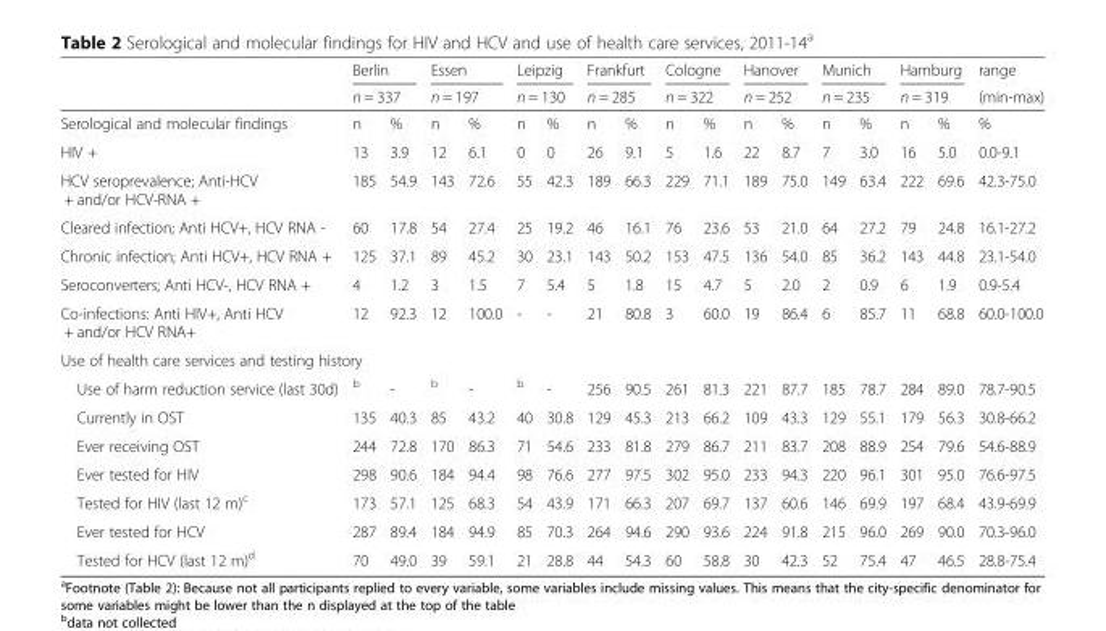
<table><thead><tr><td rowspan="3">Serological and molecular findings</td><td rowspan="2" colspan="2">Berlin n = 337</td><td rowspan="2" colspan="2">Essen n = 197</td><td rowspan="2" colspan="2">Leipzig n = 130</td><td rowspan="2" colspan="2">Frankfurt n = 285</td><td rowspan="2" colspan="2">Cologne n = 322</td><td rowspan="2" colspan="2">Hanover n = 252</td><td rowspan="2" colspan="2">Munich n = 235</td><td rowspan="2" colspan="2">Hamburg n = 319</td><td rowspan="3">range (min-max) %</td></tr><tr></tr><tr><td>n</td><td>%</td><td>n</td><td>%</td><td>n</td><td>%</td><td>n</td><td>%</td><td>n</td><td>%</td><td>n</td><td>%</td><td>n</td><td>%</td><td>n</td><td>%</td></tr></thead><tbody><tr><td>HIV +</td><td>13</td><td>3.9</td><td>12</td><td>6.1</td><td>0</td><td>0</td><td>26</td><td>9.1</td><td>5</td><td>1.6</td><td>22</td><td>8.7</td><td>7</td><td>3.0</td><td>16</td><td>5.0</td><td>0.0-9.1</td></tr><tr><td>HCV seroprevalence; Anti-HCV + and/or HCV-RNA +</td><td>185</td><td>54.9</td><td>143</td><td>72.6</td><td>55</td><td>42.3</td><td>189</td><td>66.3</td><td>229</td><td>71.1</td><td>189</td><td>75.0</td><td>149</td><td>63.4</td><td>222</td><td>69.6</td><td>42.3-75.0</td></tr><tr><td>Cleared infection; Anti HCV+, HCV RNA -</td><td>60</td><td>17.8</td><td>54</td><td>27.4</td><td>25</td><td>19.2</td><td>46</td><td>16.1</td><td>76</td><td>23.6</td><td>53</td><td>21.0</td><td>64</td><td>27.2</td><td>79</td><td>24.8</td><td>16.1-27.2</td></tr><tr><td>Chronic infection; Anti HCV+, HCV RNA +</td><td>125</td><td>37.1</td><td>89</td><td>45.2</td><td>30</td><td>23.1</td><td>143</td><td>50.2</td><td>153</td><td>47.5</td><td>136</td><td>54.0</td><td>85</td><td>36.2</td><td>143</td><td>44.8</td><td>23.1-54.0</td></tr><tr><td>Seroconverters; Anti HCV-, HCV RNA +</td><td>4</td><td>1.2</td><td>3</td><td>1.5</td><td>7</td><td>5.4</td><td>5</td><td>1.8</td><td>15</td><td>4.7</td><td>5</td><td>2.0</td><td>2</td><td>0.9</td><td>6</td><td>1.9</td><td>0.9-5.4</td></tr><tr><td>Co-infections: Anti HIV+, Anti HCV + and/or HCV RNA+</td><td>12</td><td>92.3</td><td>12</td><td>100.0</td><td>-</td><td>-</td><td>21</td><td>80.8</td><td>3</td><td>60.0</td><td>19</td><td>86.4</td><td>6</td><td>85.7</td><td>11</td><td>68.8</td><td>60.0-100.0</td></tr><tr><td colspan="18">Use of health care services and testing history</td></tr><tr><td>Use of harm reduction service (last 30d)</td><td><sup>b</sup></td><td>-</td><td><sup>b</sup></td><td>-</td><td><sup>b</sup></td><td>-</td><td>256</td><td>90.5</td><td>261</td><td>81.3</td><td>221</td><td>87.7</td><td>185</td><td>78.7</td><td>284</td><td>89.0</td><td>78.7-90.5</td></tr><tr><td>Currently in OST</td><td>135</td><td>40.3</td><td>85</td><td>43.2</td><td>40</td><td>30.8</td><td>129</td><td>45.3</td><td>213</td><td>66.2</td><td>109</td><td>43.3</td><td>129</td><td>55.1</td><td>179</td><td>56.3</td><td>30.8-66.2</td></tr><tr><td>Ever receiving OST</td><td>244</td><td>72.8</td><td>170</td><td>86.3</td><td>71</td><td>54.6</td><td>233</td><td>81.8</td><td>279</td><td>86.7</td><td>211</td><td>83.7</td><td>208</td><td>88.9</td><td>254</td><td>79.6</td><td>54.6-88.9</td></tr><tr><td>Ever tested for HIV</td><td>298</td><td>90.6</td><td>184</td><td>94.4</td><td>98</td><td>76.6</td><td>277</td><td>97.5</td><td>302</td><td>95.0</td><td>233</td><td>94.3</td><td>220</td><td>96.1</td><td>301</td><td>95.0</td><td>76.6-97.5</td></tr><tr><td>Tested for HIV (last 12 m)<sup>c</sup></td><td>173</td><td>57.1</td><td>125</td><td>68.3</td><td>54</td><td>43.9</td><td>171</td><td>66.3</td><td>207</td><td>69.7</td><td>137</td><td>60.6</td><td>146</td><td>69.9</td><td>197</td><td>68.4</td><td>43.9-69.9</td></tr><tr><td>Ever tested for HCV</td><td>287</td><td>89.4</td><td>184</td><td>94.9</td><td>85</td><td>70.3</td><td>264</td><td>94.6</td><td>290</td><td>93.6</td><td>224</td><td>91.8</td><td>215</td><td>96.0</td><td>269</td><td>90.0</td><td>70.3-96.0</td></tr><tr><td>Tested for HCV (last 12 m)<sup>d</sup></td><td>70</td><td>49.0</td><td>39</td><td>59.1</td><td>21</td><td>28.8</td><td>44</td><td>54.3</td><td>60</td><td>58.8</td><td>30</td><td>42.3</td><td>52</td><td>75.4</td><td>47</td><td>46.5</td><td>28.8-75.4</td></tr></tbody></table>